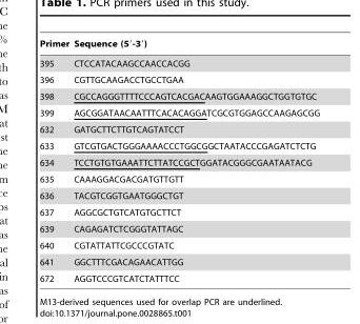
<table><thead><tr><td>Primer</td><td>Sequence (5′-3′)</td></tr></thead><tbody><tr><td>395</td><td>CTCCATACAAGCCAACCACGG</td></tr><tr><td>396</td><td>CGTTGCAAGACCTGCCTGAA</td></tr><tr><td>398</td><td>CGCCAGGGTTTTCCCAGTCACGACAAGTGGAAAGGCTGGTGTGC</td></tr><tr><td>399</td><td>AGCGGATAACAATTTCACACAGGATCGCGTGGAGCCAAGAGCGG</td></tr><tr><td>632</td><td>GATGCTTCTTGTCAGTATCCT</td></tr><tr><td>633</td><td>GTCGTGACTGGGAAAACCCTGGCGGCTAATACCCGAGATCTCTG</td></tr><tr><td>634</td><td>TCCTGTGTGAAATTCTTATCCGCTGGATACGGGCGAATAATACG</td></tr><tr><td>635</td><td>CAAAGGACGACGATGTTGTT</td></tr><tr><td>636</td><td>TACGTCGGTGAATGGGCTGT</td></tr><tr><td>637</td><td>AGGCGCTGTCATGTGCTTCT</td></tr><tr><td>639</td><td>CAGAGATCTCGGGTATTAGC</td></tr><tr><td>640</td><td>CGTATTATTCGCCCGTATC</td></tr><tr><td>641</td><td>GGCTTTCGACAGAACATTGG</td></tr><tr><td>672</td><td>AGGTCCCGTCATCTATTTCC</td></tr></tbody></table>